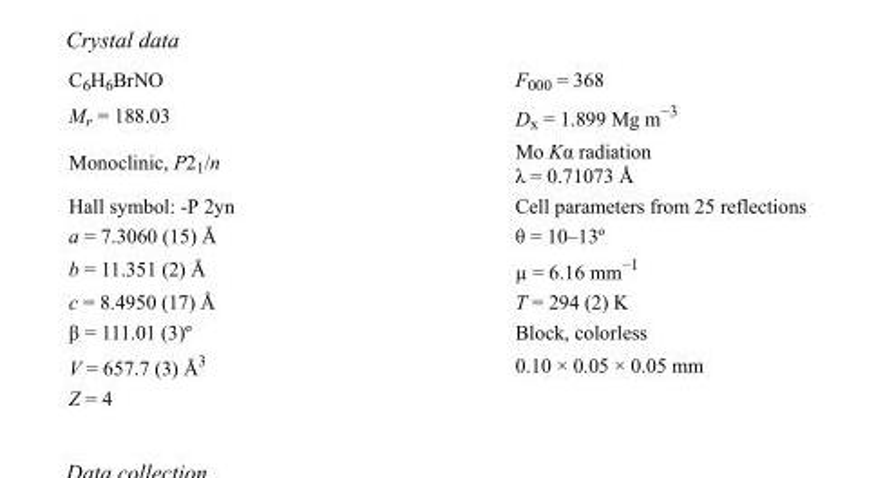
<table><tbody><tr><td>C<sub>6</sub>H<sub>6</sub>BrNO</td><td>F<sub>000</sub> = 368</td></tr><tr><td>M<sub>r</sub> = 188.03</td><td>D<sub>x</sub> = 1.899 Mg m<sup>−3</sup></td></tr><tr><td>Monoclinic, P2<sub>1</sub>/n</td><td>Mo Kα radiation λ = 0.71073 Å</td></tr><tr><td>Hall symbol: -P 2yn</td><td>Cell parameters from 25 reflections</td></tr><tr><td>a = 7.3060 (15) Å</td><td>θ = 10–13º</td></tr><tr><td>b = 11.351 (2) Å</td><td>µ = 6.16 mm<sup>−1</sup></td></tr><tr><td>c = 8.4950 (17) Å</td><td>T = 294 (2) K</td></tr><tr><td>β = 111.01 (3)º</td><td>Block, colorless</td></tr><tr><td>V = 657.7 (3) Å<sup>3</sup></td><td>0.10 × 0.05 × 0.05 mm</td></tr><tr><td>Z = 4</td><td></td></tr></tbody></table>